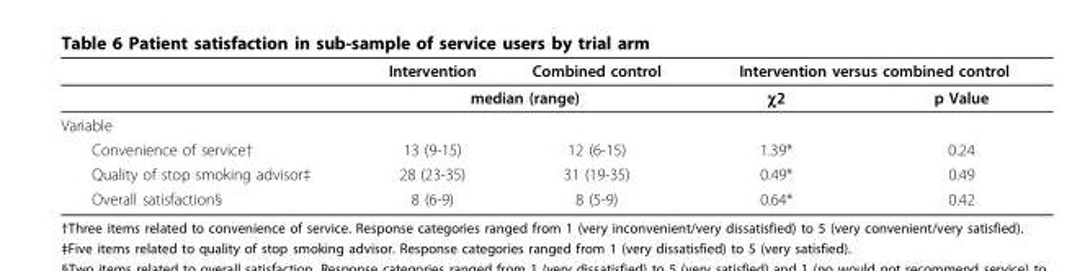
<table><thead><tr><td rowspan="2"></td><td>Intervention</td><td>Combined control</td><td colspan="2">Intervention versus combined control</td></tr><tr><td colspan="2">median (range)</td><td>χ2</td><td>p Value</td></tr></thead><tbody><tr><td colspan="5">Variable</td></tr><tr><td>Convenience of service†</td><td>13 (9-15)</td><td>12 (6-15)</td><td>1.39*</td><td>0.24</td></tr><tr><td>Quality of stop smoking advisor‡</td><td>28 (23-35)</td><td>31 (19-35)</td><td>0.49*</td><td>0.49</td></tr><tr><td>Overall satisfaction§</td><td>8 (6-9)</td><td>8 (5-9)</td><td>0.64*</td><td>0.42</td></tr></tbody></table>